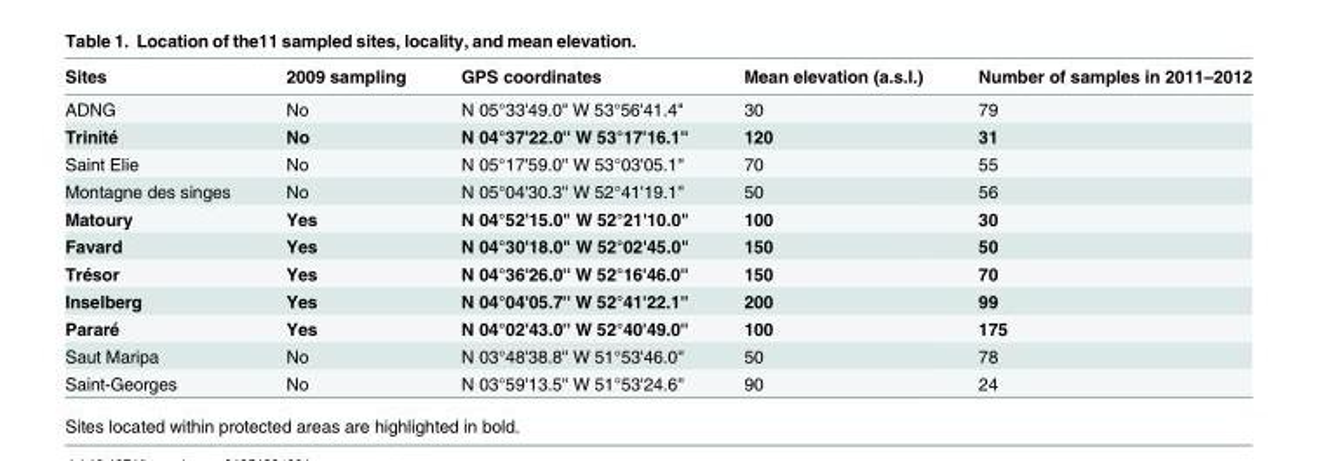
<table><thead><tr><td>Sites</td><td>2009 sampling</td><td>GPS coordinates</td><td>Mean elevation (a.s.l.)</td><td>Number of samples in 2011–2012</td></tr></thead><tbody><tr><td>ADNG</td><td>No</td><td>N 05°33&#x27;49.0&quot; W 53°56&#x27;41.4&quot;</td><td>30</td><td>79</td></tr><tr><td>Trinité</td><td>No</td><td>N 04°37&#x27;22.0&#x27;&#x27; W 53°17&#x27;16.1&#x27;&#x27;</td><td>120</td><td>31</td></tr><tr><td>Saint Elie</td><td>No</td><td>N 05°17&#x27;59.0&#x27;&#x27; W 53°03&#x27;05.1&#x27;&#x27;</td><td>70</td><td>55</td></tr><tr><td>Montagne des singes</td><td>No</td><td>N 05°04&#x27;30.3&#x27;&#x27; W 52°41&#x27;19.1&#x27;&#x27;</td><td>50</td><td>56</td></tr><tr><td>Matoury</td><td>Yes</td><td>N 04°52&#x27;15.0&quot; W 52°21&#x27;10.0&quot;</td><td>100</td><td>30</td></tr><tr><td>Favard</td><td>Yes</td><td>N 04°30&#x27;18.0&quot; W 52°02&#x27;45.0&quot;</td><td>150</td><td>50</td></tr><tr><td>Trésor</td><td>Yes</td><td>N 04°36&#x27;26.0&#x27;&#x27; W 52°16&#x27;46.0&#x27;&#x27;</td><td>150</td><td>70</td></tr><tr><td>Inselberg</td><td>Yes</td><td>N 04°04&#x27;05.7&#x27;&#x27; W 52°41&#x27;22.1&#x27;&#x27;</td><td>200</td><td>99</td></tr><tr><td>Pararé</td><td>Yes</td><td>N 04°02&#x27;43.0&#x27;&#x27; W 52°40&#x27;49.0&#x27;&#x27;</td><td>100</td><td>175</td></tr><tr><td>Saut Maripa</td><td>No</td><td>N 03°48&#x27;38.8&#x27;&#x27; W 51°53&#x27;46.0&#x27;&#x27;</td><td>50</td><td>78</td></tr><tr><td>Saint-Georges</td><td>No</td><td>N 03°59&#x27;13.5&#x27;&#x27; W 51°53&#x27;24.6&#x27;&#x27;</td><td>90</td><td>24</td></tr></tbody></table>